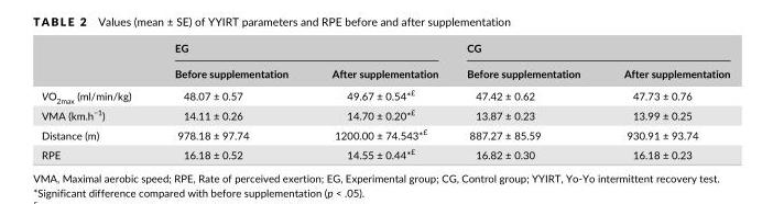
<table><thead><tr><td rowspan="2"></td><td colspan="2">EG</td><td colspan="2">CG</td></tr><tr><td>Before supplementation</td><td>After supplementation</td><td>Before supplementation</td><td>After supplementation</td></tr></thead><tbody><tr><td>VO<sub>2max</sub> (ml/min/kg)</td><td>48.07 ± 0.57</td><td>49.67 ± 0.54*£</td><td>47.42 ± 0.62</td><td>47.73 ± 0.76</td></tr><tr><td>VMA (km.h<sup>−1</sup>)</td><td>14.11 ± 0.26</td><td>14.70 ± 0.20*£</td><td>13.87 ± 0.23</td><td>13.99 ± 0.25</td></tr><tr><td>Distance (m)</td><td>978.18 ± 97.74</td><td>1200.00 ± 74.543*£</td><td>887.27 ± 85.59</td><td>930.91 ± 93.74</td></tr><tr><td>RPE</td><td>16.18 ± 0.52</td><td>14.55 ± 0.44*£</td><td>16.82 ± 0.30</td><td>16.18 ± 0.23</td></tr></tbody></table>